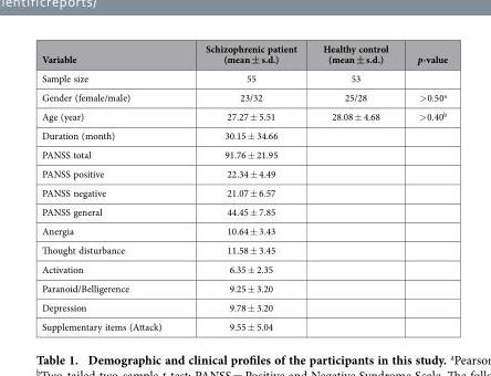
<table><thead><tr><td>Variable</td><td>Schizophrenic patient (mean ± s.d.)</td><td>Healthy control (mean ± s.d.)</td><td>p-value</td></tr></thead><tbody><tr><td>Sample size</td><td>55</td><td>53</td><td></td></tr><tr><td>Gender (female/male)</td><td>23/32</td><td>25/28</td><td>&gt; 0.50<sup>a</sup></td></tr><tr><td>Age (year)</td><td>27.27 ± 5.51</td><td>28.08 ± 4.68</td><td>&gt; 0.40<sup>b</sup></td></tr><tr><td>Duration (month)</td><td>30.15 ± 34.66</td><td></td><td></td></tr><tr><td>PANSS total</td><td>91.76 ± 21.95</td><td></td><td></td></tr><tr><td>PANSS positive</td><td>22.34 ± 4.49</td><td></td><td></td></tr><tr><td>PANSS negative</td><td>21.07 ± 6.57</td><td></td><td></td></tr><tr><td>PANSS general</td><td>44.45 ± 7.85</td><td></td><td></td></tr><tr><td>Anergia</td><td>10.64 ± 3.43</td><td></td><td></td></tr><tr><td>Thought disturbance</td><td>11.58 ± 3.45</td><td></td><td></td></tr><tr><td>Activation</td><td>6.35 ± 2.35</td><td></td><td></td></tr><tr><td>Paranoid/Belligerence</td><td>9.25 ± 3.20</td><td></td><td></td></tr><tr><td>Depression</td><td>9.78 ± 3.20</td><td></td><td></td></tr><tr><td>Supplementary items (Attack)</td><td>9.55 ± 5.04</td><td></td><td></td></tr></tbody></table>